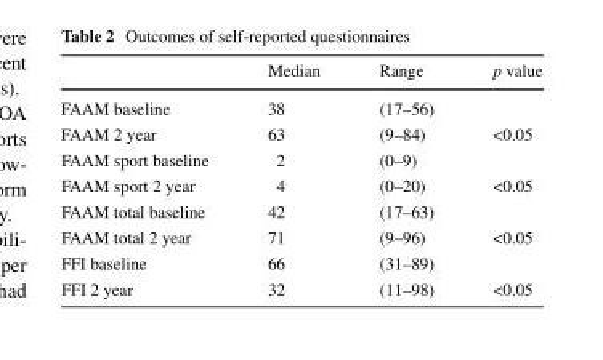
<table><thead><tr><td></td><td>Median</td><td>Range</td><td>p value</td></tr></thead><tbody><tr><td>FAAM baseline</td><td>38</td><td>(17–56)</td><td></td></tr><tr><td>FAAM 2 year</td><td>63</td><td>(9–84)</td><td>&lt;0.05</td></tr><tr><td>FAAM sport baseline</td><td>2</td><td>(0–9)</td><td></td></tr><tr><td>FAAM sport 2 year</td><td>4</td><td>(0–20)</td><td>&lt;0.05</td></tr><tr><td>FAAM total baseline</td><td>42</td><td>(17–63)</td><td></td></tr><tr><td>FAAM total 2 year</td><td>71</td><td>(9–96)</td><td>&lt;0.05</td></tr><tr><td>FFI baseline</td><td>66</td><td>(31–89)</td><td></td></tr><tr><td>FFI 2 year</td><td>32</td><td>(11–98)</td><td>&lt;0.05</td></tr></tbody></table>